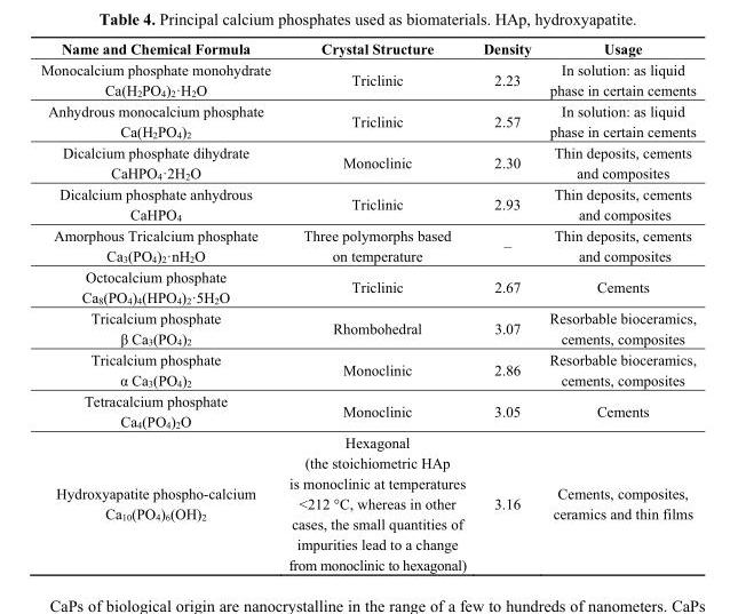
<table><thead><tr><td>Name and Chemical Formula</td><td>Crystal Structure</td><td>Density</td><td>Usage</td></tr></thead><tbody><tr><td>Monocalcium phosphate monohydrate Ca(H<sub>2</sub>PO<sub>4</sub>)<sub>2</sub>·H<sub>2</sub>O</td><td>Triclinic</td><td>2.23</td><td>In solution: as liquid phase in certain cements</td></tr><tr><td>Anhydrous monocalcium phosphate Ca(H<sub>2</sub>PO<sub>4</sub>)<sub>2</sub></td><td>Triclinic</td><td>2.57</td><td>In solution: as liquid phase in certain cements</td></tr><tr><td>Dicalcium phosphate dihydrate CaHPO<sub>4</sub>·2H<sub>2</sub>O</td><td>Monoclinic</td><td>2.30</td><td>Thin deposits, cements and composites</td></tr><tr><td>Dicalcium phosphate anhydrous CaHPO<sub>4</sub></td><td>Triclinic</td><td>2.93</td><td>Thin deposits, cements and composites</td></tr><tr><td>Amorphous Tricalcium phosphate Ca<sub>3</sub>(PO<sub>4</sub>)<sub>2</sub>·nH<sub>2</sub>O</td><td>Three polymorphs based on temperature</td><td>–</td><td>Thin deposits, cements and composites</td></tr><tr><td>Octocalcium phosphate Ca<sub>8</sub>(PO<sub>4</sub>)<sub>4</sub>(HPO<sub>4</sub>)<sub>2</sub>·5H<sub>2</sub>O</td><td>Triclinic</td><td>2.67</td><td>Cements</td></tr><tr><td>Tricalcium phosphate β Ca<sub>3</sub>(PO<sub>4</sub>)<sub>2</sub></td><td>Rhombohedral</td><td>3.07</td><td>Resorbable bioceramics, cements, composites</td></tr><tr><td>Tricalcium phosphate α Ca<sub>3</sub>(PO<sub>4</sub>)<sub>2</sub></td><td>Monoclinic</td><td>2.86</td><td>Resorbable bioceramics, cements, composites</td></tr><tr><td>Tetracalcium phosphate Ca<sub>4</sub>(PO<sub>4</sub>)<sub>2</sub>O</td><td>Monoclinic</td><td>3.05</td><td>Cements</td></tr><tr><td>Hydroxyapatite phospho-calcium Ca<sub>10</sub>(PO<sub>4</sub>)<sub>6</sub>(OH)<sub>2</sub></td><td>Hexagonal (the stoichiometric HAp is monoclinic at temperatures &lt;212 °C, whereas in other cases, the small quantities of impurities lead to a change from monoclinic to hexagonal)</td><td>3.16</td><td>Cements, composites, ceramics and thin films</td></tr></tbody></table>